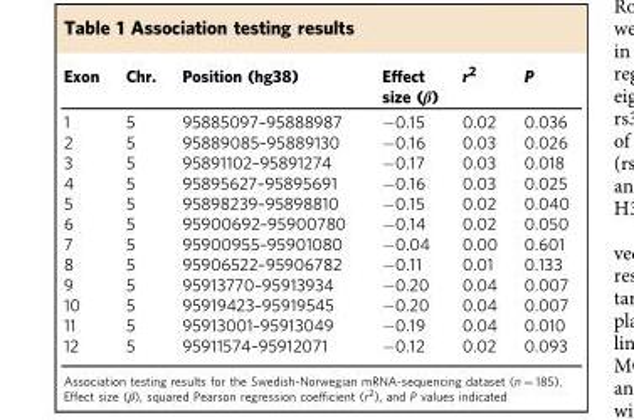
<table><thead><tr><td>Exon</td><td>Chr.</td><td>Position (hg38)</td><td>Effect size (β)</td><td>r<sup>2</sup></td><td>P</td></tr></thead><tbody><tr><td>1</td><td>5</td><td>95885097–95888987</td><td>−0.15</td><td>0.02</td><td>0.036</td></tr><tr><td>2</td><td>5</td><td>95889085–95889130</td><td>−0.16</td><td>0.03</td><td>0.026</td></tr><tr><td>3</td><td>5</td><td>95891102–95891274</td><td>−0.17</td><td>0.03</td><td>0.018</td></tr><tr><td>4</td><td>5</td><td>95895627–95895691</td><td>−0.16</td><td>0.03</td><td>0.025</td></tr><tr><td>5</td><td>5</td><td>95898239–95898810</td><td>−0.15</td><td>0.02</td><td>0.040</td></tr><tr><td>6</td><td>5</td><td>95900692–95900780</td><td>−0.14</td><td>0.02</td><td>0.050</td></tr><tr><td>7</td><td>5</td><td>95900955–95901080</td><td>−0.04</td><td>0.00</td><td>0.601</td></tr><tr><td>8</td><td>5</td><td>95906522–95906782</td><td>−0.11</td><td>0.01</td><td>0.133</td></tr><tr><td>9</td><td>5</td><td>95913770–95913934</td><td>−0.20</td><td>0.04</td><td>0.007</td></tr><tr><td>10</td><td>5</td><td>95919423–95919545</td><td>−0.20</td><td>0.04</td><td>0.007</td></tr><tr><td>11</td><td>5</td><td>95913001–95913049</td><td>−0.19</td><td>0.04</td><td>0.010</td></tr><tr><td>12</td><td>5</td><td>95911574–95912071</td><td>−0.12</td><td>0.02</td><td>0.093</td></tr></tbody></table>